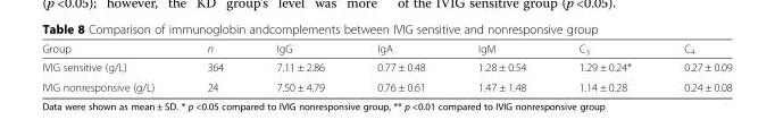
<table><thead><tr><td>Group</td><td>n</td><td>IgG</td><td>IgA</td><td>IgM</td><td>C<sub>3</sub></td><td>C<sub>4</sub></td></tr></thead><tbody><tr><td>IVIG sensitive (g/L)</td><td>364</td><td>7.11 ± 2.86</td><td>0.77 ± 0.48</td><td>1.28 ± 0.54</td><td>1.29 ± 0.24*</td><td>0.27 ± 0.09</td></tr><tr><td>IVIG nonresponsive (g/L)</td><td>24</td><td>7.50 ± 4.79</td><td>0.76 ± 0.61</td><td>1.47 ± 1.48</td><td>1.14 ± 0.28</td><td>0.24 ± 0.08</td></tr></tbody></table>